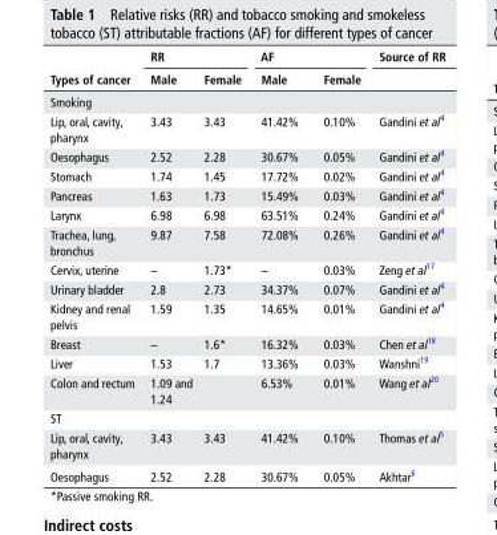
<table><thead><tr><td rowspan="2">Types of cancer</td><td colspan="2">RR</td><td colspan="2">AF</td><td rowspan="2">source of RR</td></tr><tr><td>Male</td><td>Female</td><td>Male</td><td>Female</td></tr></thead><tbody><tr><td colspan="6">Smoking</td></tr><tr><td>Lip, oral, cavity, pharynx</td><td>3.43</td><td>3.43</td><td>41.42%</td><td>0.10%</td><td>Gandini et al4</td></tr><tr><td>Oesophagus</td><td>2.52</td><td>2.28</td><td>30.67%</td><td>0.05%</td><td>Gandini et al<sup>4</sup></td></tr><tr><td>Stomach</td><td>1.74</td><td>1.45</td><td>17.72%</td><td>0.02%</td><td>Gandini et al4</td></tr><tr><td>Pancreas</td><td>1.63</td><td>1.73</td><td>15.49%</td><td>0.03%</td><td>Gandini et al4</td></tr><tr><td>Larynx</td><td>6.98</td><td>6.98</td><td>63.51%</td><td>0.24%</td><td>Gandini et al4</td></tr><tr><td>Trachea, lung, bronchus</td><td>9.87</td><td>7.58</td><td>72.08%</td><td>0.26%</td><td>Gandini et al4</td></tr><tr><td>Cervix, uterine</td><td>–</td><td>1.73*</td><td>–</td><td>0.03%</td><td>Zeng et al17</td></tr><tr><td>Urinary bladder</td><td>2.8</td><td>2.73</td><td>34.37%</td><td>0.07%</td><td>Gandini et al4</td></tr><tr><td>Kidney and renal pelvis</td><td>1.59</td><td>1.35</td><td>14.65%</td><td>0.01%</td><td>Gandini et al4</td></tr><tr><td>Breast</td><td>–</td><td>1.6*</td><td>16.32%</td><td>0.03%</td><td>Chen et al18</td></tr><tr><td>Liver</td><td>1.53</td><td>1.7</td><td>13.36%</td><td>0.03%</td><td>Wanshni<sup>19</sup></td></tr><tr><td>Colon and rectum</td><td>1.09 and 1.24</td><td></td><td>6.53%</td><td>0.01%</td><td>Wang et al20</td></tr><tr><td colspan="6">ST</td></tr><tr><td>Lip, oral, cavity, pharynx</td><td>3.43</td><td>3.43</td><td>41.42%</td><td>0.10%</td><td>Thomas et al5</td></tr><tr><td>Oesophagus</td><td>2.52</td><td>2.28</td><td>30.67%</td><td>0.05%</td><td>Akhtar<sup>6</sup></td></tr></tbody></table>